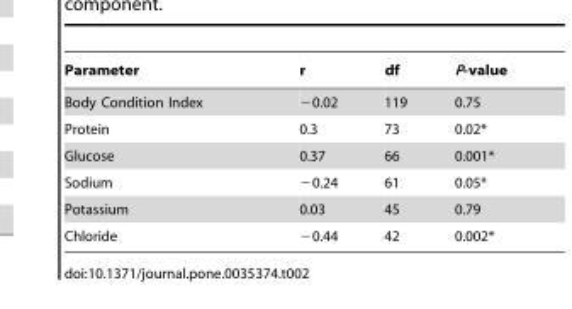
<table><thead><tr><td>Parameter</td><td>r</td><td>df</td><td>P-value</td></tr></thead><tbody><tr><td>Body Condition Index</td><td>−0.02</td><td>119</td><td>0.75</td></tr><tr><td>Protein</td><td>0.3</td><td>73</td><td>0.02*</td></tr><tr><td>Glucose</td><td>0.37</td><td>66</td><td>0.001*</td></tr><tr><td>Sodium</td><td>−0.24</td><td>61</td><td>0.05*</td></tr><tr><td>Potassium</td><td>0.03</td><td>45</td><td>0.79</td></tr><tr><td>Chloride</td><td>−0.44</td><td>42</td><td>0.002*</td></tr></tbody></table>